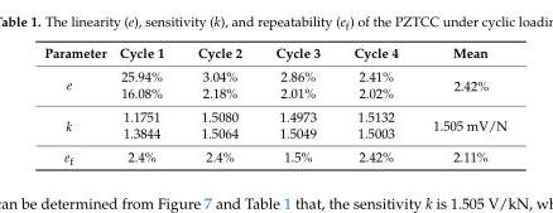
<table><thead><tr><td>Parameter</td><td>Cycle 1</td><td>Cycle 2</td><td>Cycle 3</td><td>Cycle 4</td><td>Mean</td></tr></thead><tbody><tr><td rowspan="2">e</td><td>25.94%</td><td>3.04%</td><td>2.86%</td><td>2.41%</td><td rowspan="2">2.42%</td></tr><tr><td>16.08%</td><td>2.18%</td><td>2.01%</td><td>2.02%</td></tr><tr><td rowspan="2">k</td><td>1.1751</td><td>1.5080</td><td>1.4973</td><td>1.5132</td><td rowspan="2">1.505 mV/N</td></tr><tr><td>1.3844</td><td>1.5064</td><td>1.5049</td><td>1.5003</td></tr><tr><td>e<sub>f</sub></td><td>2.4%</td><td>2.4%</td><td>1.5%</td><td>2.42%</td><td>2.11%</td></tr></tbody></table>